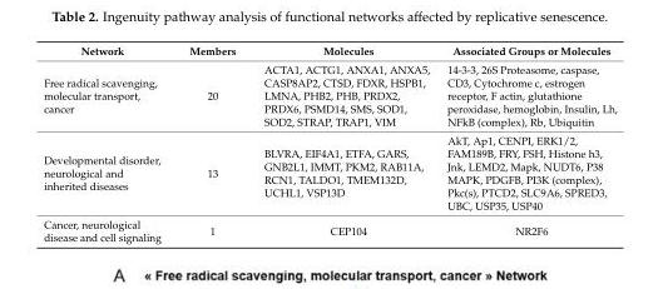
<table><thead><tr><td>Network</td><td>Members</td><td>Molecules</td><td>Associated Groups or Molecules</td></tr></thead><tbody><tr><td>Free radical scavenging, molecular transport, cancer</td><td>20</td><td>ACTA1, ACTG1, ANXA1, ANXA5, CASP8AP2, CTSD, FDXR, HSPB1, LMNA, PHB2, PHB, PRDX2, PRDX6, PSMD14, SMS, SOD1, SOD2, STRAP, TRAP1, VIM</td><td>14-3-3, 26S Proteasome, caspase, CD3, Cytochrome c, estrogen receptor, F actin, glutathione peroxidase, hemoglobin, Insulin, Lh, NFkB (complex), Rb, Ubiquitin</td></tr><tr><td>Developmental disorder, neurological and inherited diseases</td><td>13</td><td>BLVRA, EIF4A1, ETFA, GARS, GNB2L1, IMMT, PKM2, RAB11A, RCN1, TALDO1, TMEM132D, UCHL1, VSP13D</td><td>AkT, Ap1, CENPI, ERK1/2, FAM189B, FRY, FSH, Histone h3, Jnk, LEMD2, Mapk, NUDT6, P38 MAPK, PDGFB, PI3K (complex), Pkc(s), PTCD2, SLC9A6, SPRED3, UBC, USP35, USP40</td></tr><tr><td>Cancer, neurological disease and cell signaling</td><td>1</td><td>CEP104</td><td>NR2F6</td></tr></tbody></table>